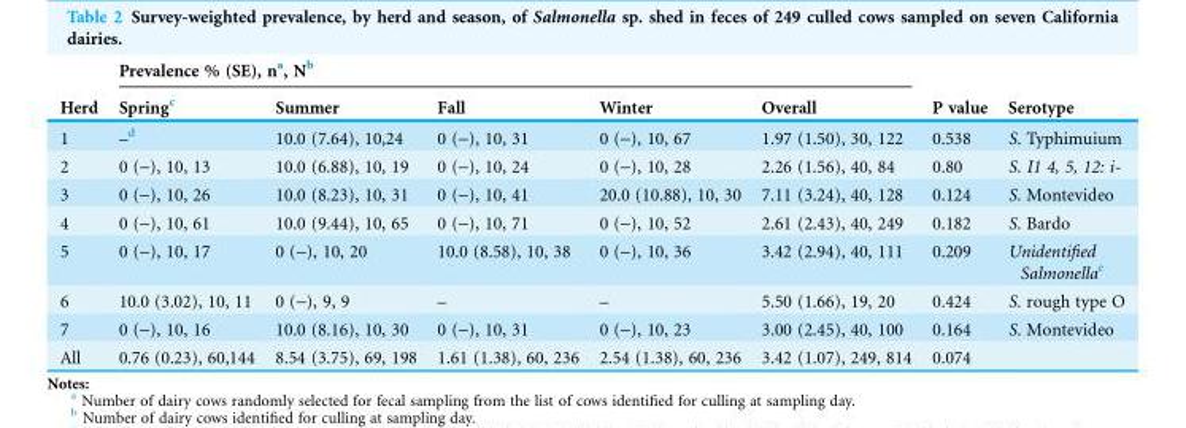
<table><thead><tr><td rowspan="2">Herd</td><td colspan="5">Prevalence % (SE), n<sup>a</sup>, N<sup>b</sup></td><td rowspan="2">P value</td><td rowspan="2">Serotype</td></tr><tr><td>Spring<sup>c</sup></td><td>Summer</td><td>Fall</td><td>Winter</td><td>Overall</td></tr></thead><tbody><tr><td>1</td><td>–<sup>d</sup></td><td>10.0 (7.64), 10,24</td><td>0 (-), 10, 31</td><td>0 (-), 10, 67</td><td>1.97 (1.50), 30, 122</td><td>0.538</td><td>S. Typhimuium</td></tr><tr><td>2</td><td>0 (-), 10, 13</td><td>10.0 (6.88), 10, 19</td><td>0 (-), 10, 24</td><td>0 (-), 10, 28</td><td>2.26 (1.56), 40, 84</td><td>0.80</td><td>S. I1 4, 5, 12: i-</td></tr><tr><td>3</td><td>0 (-), 10, 26</td><td>10.0 (8.23), 10, 31</td><td>0 (-), 10, 41</td><td>20.0 (10.88), 10, 30</td><td>7.11 (3.24), 40, 128</td><td>0.124</td><td>S. Montevideo</td></tr><tr><td>4</td><td>0 (-), 10, 61</td><td>10.0 (9.44), 10, 65</td><td>0 (-), 10, 71</td><td>0 (-), 10, 52</td><td>2.61 (2.43), 40, 249</td><td>0.182</td><td>S. Bardo</td></tr><tr><td>5</td><td>0 (-), 10, 17</td><td>0 (-), 10, 20</td><td>10.0 (8.58), 10, 38</td><td>0 (-), 10, 36</td><td>3.42 (2.94), 40, 111</td><td>0.209</td><td>Unidentified Salmonella<sup>e</sup></td></tr><tr><td>6</td><td>10.0 (3.02), 10, 11</td><td>0 (-), 9, 9</td><td>–</td><td>–</td><td>5.50 (1.66), 19, 20</td><td>0.424</td><td>S. rough type O</td></tr><tr><td>7</td><td>0 (-), 10, 16</td><td>10.0 (8.16), 10, 30</td><td>0 (-), 10, 31</td><td>0 (-), 10, 23</td><td>3.00 (2.45), 40, 100</td><td>0.164</td><td>S. Montevideo</td></tr><tr><td>All</td><td>0.76 (0.23), 60,144</td><td>8.54 (3.75), 69, 198</td><td>1.61 (1.38), 60, 236</td><td>2.54 (1.38), 60, 236</td><td>3.42 (1.07), 249, 814</td><td>0.074</td><td></td></tr></tbody></table>